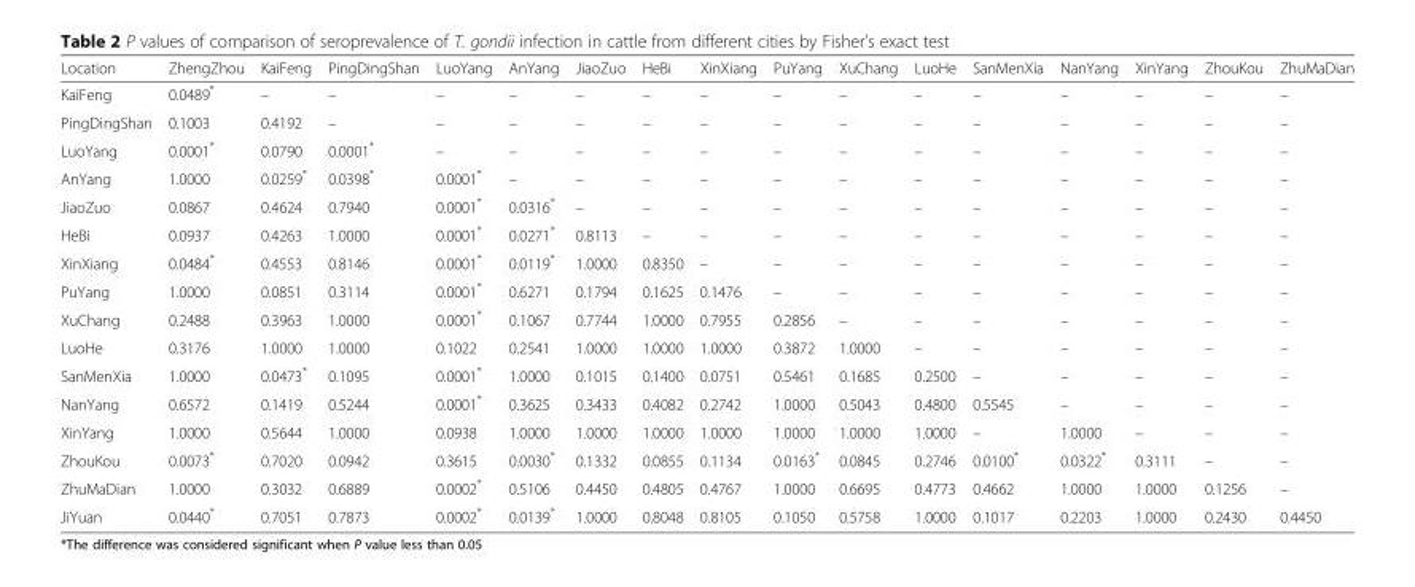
<table><thead><tr><td>Location</td><td>ZhengZhou</td><td>KaiFeng</td><td>PingDingShan</td><td>LuoYang</td><td>AnYang</td><td>JiaoZuo</td><td>HeBi</td><td>XinXiang</td><td>PuYang</td><td>XuChang</td><td>LuoHe</td><td>SanMenXia</td><td>NanYang</td><td>XinYang</td><td>ZhouKou</td><td>ZhuMaDian</td></tr></thead><tbody><tr><td>KaiFeng</td><td>0.0489*</td><td>–</td><td>–</td><td>–</td><td>–</td><td>–</td><td>–</td><td>–</td><td>–</td><td>–</td><td>–</td><td>–</td><td>–</td><td>–</td><td>–</td><td>–</td></tr><tr><td>PingDingShan</td><td>0.1003</td><td>0.4192</td><td>–</td><td>–</td><td>–</td><td>–</td><td>–</td><td>–</td><td>–</td><td>–</td><td>–</td><td>–</td><td>–</td><td>–</td><td>–</td><td>–</td></tr><tr><td>LuoYang</td><td>0.0001*</td><td>0.0790</td><td>0.0001*</td><td>–</td><td>–</td><td>–</td><td>–</td><td>–</td><td>–</td><td>–</td><td>–</td><td>–</td><td>–</td><td>–</td><td>–</td><td>–</td></tr><tr><td>AnYang</td><td>1.0000</td><td>0.0259*</td><td>0.0398*</td><td>0.0001*</td><td>–</td><td>–</td><td>–</td><td>–</td><td>–</td><td>–</td><td>–</td><td>–</td><td>–</td><td>–</td><td>–</td><td>–</td></tr><tr><td>JiaoZuo</td><td>0.0867</td><td>0.4624</td><td>0.7940</td><td>0.0001*</td><td>0.0316*</td><td>–</td><td>–</td><td>–</td><td>–</td><td>–</td><td>–</td><td>–</td><td>–</td><td>–</td><td>–</td><td>–</td></tr><tr><td>HeBi</td><td>0.0937</td><td>0.4263</td><td>1.0000</td><td>0.0001*</td><td>0.0271*</td><td>0.8113</td><td>–</td><td>–</td><td>–</td><td>–</td><td>–</td><td>–</td><td>–</td><td>–</td><td>–</td><td>–</td></tr><tr><td>XinXiang</td><td>0.0484*</td><td>0.4553</td><td>0.8146</td><td>0.0001*</td><td>0.0119*</td><td>1.0000</td><td>0.8350</td><td>–</td><td>–</td><td>–</td><td>–</td><td>–</td><td>–</td><td>–</td><td>–</td><td>–</td></tr><tr><td>PuYang</td><td>1.0000</td><td>0.0851</td><td>0.3114</td><td>0.0001*</td><td>0.6271</td><td>0.1794</td><td>0.1625</td><td>0.1476</td><td>–</td><td>–</td><td>–</td><td>–</td><td>–</td><td>–</td><td>–</td><td>–</td></tr><tr><td>XuChang</td><td>0.2488</td><td>0.3963</td><td>1.0000</td><td>0.0001*</td><td>0.1067</td><td>0.7744</td><td>1.0000</td><td>0.7955</td><td>0.2856</td><td>–</td><td>–</td><td>–</td><td>–</td><td>–</td><td>–</td><td>–</td></tr><tr><td>LuoHe</td><td>0.3176</td><td>1.0000</td><td>1.0000</td><td>0.1022</td><td>0.2541</td><td>1.0000</td><td>1.0000</td><td>1.0000</td><td>0.3872</td><td>1.0000</td><td>–</td><td>–</td><td>–</td><td>–</td><td>–</td><td>–</td></tr><tr><td>SanMenXia</td><td>1.0000</td><td>0.0473*</td><td>0.1095</td><td>0.0001*</td><td>1.0000</td><td>0.1015</td><td>0.1400</td><td>0.0751</td><td>0.5461</td><td>0.1685</td><td>0.2500</td><td>–</td><td>–</td><td>–</td><td>–</td><td>–</td></tr><tr><td>NanYang</td><td>0.6572</td><td>0.1419</td><td>0.5244</td><td>0.0001*</td><td>0.3625</td><td>0.3433</td><td>0.4082</td><td>0.2742</td><td>1.0000</td><td>0.5043</td><td>0.4800</td><td>0.5545</td><td>–</td><td>–</td><td>–</td><td>–</td></tr><tr><td>XinYang</td><td>1.0000</td><td>0.5644</td><td>1.0000</td><td>0.0938</td><td>1.0000</td><td>1.0000</td><td>1.0000</td><td>1.0000</td><td>1.0000</td><td>1.0000</td><td>1.0000</td><td>–</td><td>1.0000</td><td>–</td><td>–</td><td>–</td></tr><tr><td>ZhouKou</td><td>0.0073*</td><td>0.7020</td><td>0.0942</td><td>0.3615</td><td>0.0030*</td><td>0.1332</td><td>0.0855</td><td>0.1134</td><td>0.0163*</td><td>0.0845</td><td>0.2746</td><td>0.0100*</td><td>0.0322*</td><td>0.3111</td><td>–</td><td>–</td></tr><tr><td>ZhuMaDian</td><td>1.0000</td><td>0.3032</td><td>0.6889</td><td>0.0002*</td><td>0.5106</td><td>0.4450</td><td>0.4805</td><td>0.4767</td><td>1.0000</td><td>0.6695</td><td>0.4773</td><td>0.4662</td><td>1.0000</td><td>1.0000</td><td>0.1256</td><td>–</td></tr><tr><td>JiYuan</td><td>0.0440*</td><td>0.7051</td><td>0.7873</td><td>0.0002*</td><td>0.0139*</td><td>1.0000</td><td>0.8048</td><td>0.8105</td><td>0.1050</td><td>0.5758</td><td>1.0000</td><td>0.1017</td><td>0.2203</td><td>1.0000</td><td>0.2430</td><td>0.4450</td></tr></tbody></table>